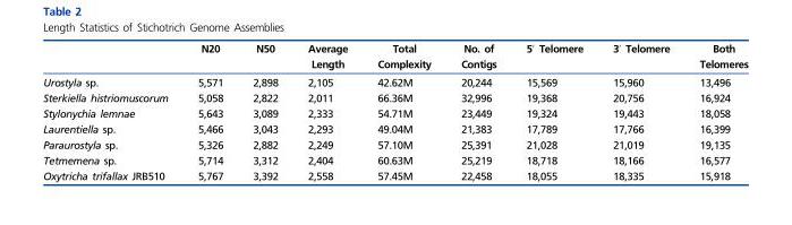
<table><thead><tr><td></td><td>N20</td><td>N50</td><td>Average Length</td><td>Total Complexity</td><td>No. of Contigs</td><td>5′ Telomere</td><td>3′ Telomere</td><td>Both Telomeres</td></tr></thead><tbody><tr><td>Urostyla sp.</td><td>5,571</td><td>2,898</td><td>2,105</td><td>42.62M</td><td>20,244</td><td>15,569</td><td>15,960</td><td>13,496</td></tr><tr><td>Sterkiella histriomuscorum</td><td>5,058</td><td>2,822</td><td>2,011</td><td>66.36M</td><td>32,996</td><td>19,368</td><td>20,756</td><td>16,924</td></tr><tr><td>Stylonychia lemnae</td><td>5,643</td><td>3,089</td><td>2,333</td><td>54.71M</td><td>23,449</td><td>19,324</td><td>19,443</td><td>18,058</td></tr><tr><td>Laurentiella sp.</td><td>5,466</td><td>3,043</td><td>2,293</td><td>49.04M</td><td>21,383</td><td>17,789</td><td>17,766</td><td>16,399</td></tr><tr><td>Paraurostyla sp.</td><td>5,326</td><td>2,882</td><td>2,249</td><td>57.10M</td><td>25,391</td><td>21,028</td><td>21,019</td><td>19,135</td></tr><tr><td>Tetmemena sp.</td><td>5,714</td><td>3,312</td><td>2,404</td><td>60.63M</td><td>25,219</td><td>18,718</td><td>18,166</td><td>16,577</td></tr><tr><td>Oxytricha trifallax JRB510</td><td>5,767</td><td>3,392</td><td>2,558</td><td>57.45M</td><td>22,458</td><td>18,055</td><td>18,335</td><td>15,918</td></tr></tbody></table>